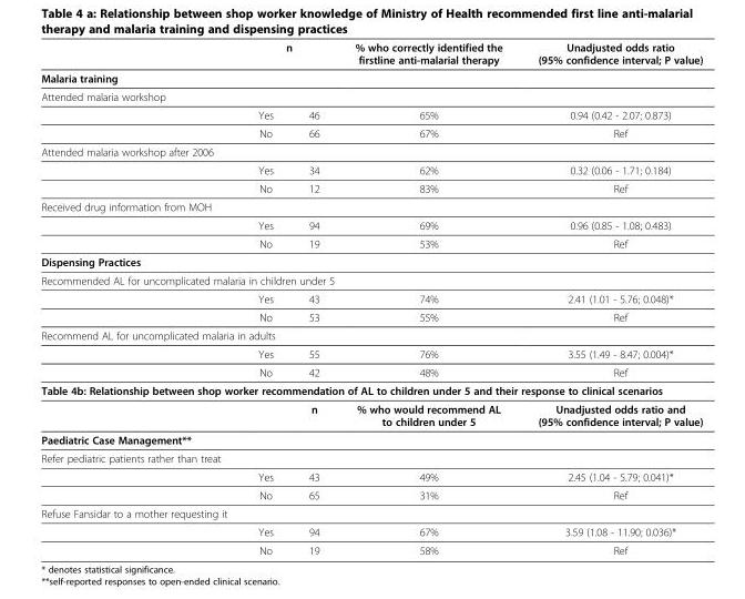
<table><thead><tr><td rowspan="2">Malaria training</td><td colspan="2">n</td><td rowspan="2">% who correctly identified the firstline anti-malarial therapy</td><td rowspan="2">Unadjusted odds ratio (95% confidence interval; P value)</td></tr><tr><td></td><td></td></tr></thead><tbody><tr><td colspan="5">Attended malaria workshop</td></tr><tr><td></td><td>Yes</td><td>46</td><td>65%</td><td>0.94 (0.42 - 2.07; 0.873)</td></tr><tr><td></td><td>No</td><td>66</td><td>67%</td><td>Ref</td></tr><tr><td colspan="5">Attended malaria workshop after 2006</td></tr><tr><td></td><td>Yes</td><td>34</td><td>62%</td><td>0.32 (0.06 - 1.71; 0.184)</td></tr><tr><td></td><td>No</td><td>12</td><td>83%</td><td>Ref</td></tr><tr><td colspan="5">Received drug information from MOH</td></tr><tr><td></td><td>Yes</td><td>94</td><td>69%</td><td>0.96 (0.85 - 1.08; 0.483)</td></tr><tr><td></td><td>No</td><td>19</td><td>53%</td><td>Ref</td></tr><tr><td colspan="5">Dispensing Practices</td></tr><tr><td colspan="5">Recommended AL for uncomplicated malaria in children under 5</td></tr><tr><td></td><td>Yes</td><td>43</td><td>74%</td><td>2.41 (1.01 - 5.76; 0.048)*</td></tr><tr><td></td><td>No</td><td>53</td><td>55%</td><td>Ref</td></tr><tr><td colspan="5">Recommend AL for uncomplicated malaria in adults</td></tr><tr><td></td><td>Yes</td><td>55</td><td>76%</td><td>3.55 (1.49 - 8.47; 0.004)*</td></tr><tr><td></td><td>No</td><td>42</td><td>48%</td><td>Ref</td></tr><tr><td colspan="5">Table 4b: Relationship between shop worker recommendation of AL to children under 5 and their response to clinical scenarios</td></tr><tr><td></td><td></td><td>n</td><td>% who would recommend AL to children under 5</td><td>Unadjusted odds ratio and (95% confidence interval; P value)</td></tr><tr><td colspan="5">Paediatric Case Management**</td></tr><tr><td colspan="5">Refer pediatric patients rather than treat</td></tr><tr><td></td><td>Yes</td><td>43</td><td>49%</td><td>2.45 (1.04 - 5.79; 0.041)*</td></tr><tr><td></td><td>No</td><td>65</td><td>31%</td><td>Ref</td></tr><tr><td colspan="5">Refuse Fansidar to a mother requesting it</td></tr><tr><td></td><td>Yes</td><td>94</td><td>67%</td><td>3.59 (1.08 - 11.90; 0.036)*</td></tr><tr><td></td><td>No</td><td>19</td><td>58%</td><td>Ref</td></tr></tbody></table>